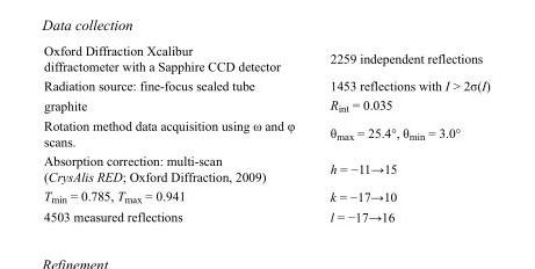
<table><tbody><tr><td>Oxford Diffraction Xcalibur diffractometer with a Sapphire CCD detector</td><td>2259 independent reflections</td></tr><tr><td>Radiation source: fine-focus sealed tube</td><td>1453 reflections with I &gt; 2σ(I)</td></tr><tr><td>graphite</td><td>R<sub>int</sub> = 0.035</td></tr><tr><td>Rotation method data acquisition using ω and φ scans.</td><td>θ<sub>max</sub> = 25.4°, θ<sub>min</sub> = 3.0°</td></tr><tr><td>Absorption correction: multi-scan (CrysAlis RED; Oxford Diffraction, 2009)</td><td>h = −11→15</td></tr><tr><td>T<sub>min</sub> = 0.785, T<sub>max</sub> = 0.941</td><td>k = −17→10</td></tr><tr><td>4503 measured reflections</td><td>l = −17→16</td></tr></tbody></table>